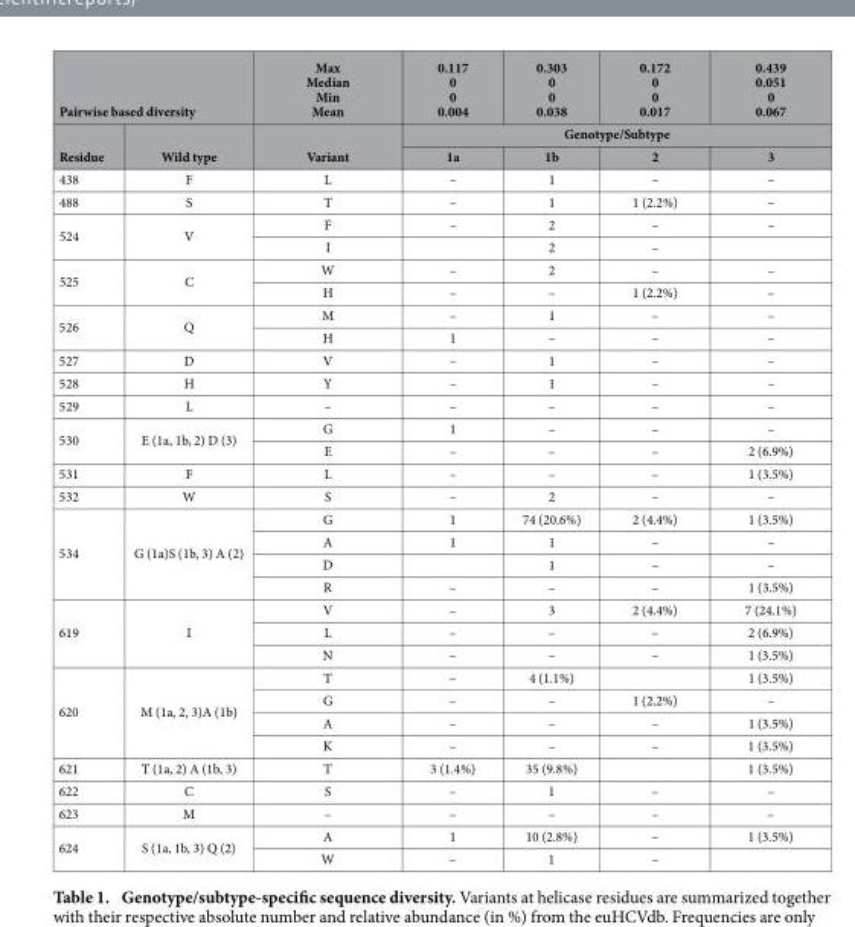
<table><thead><tr><td colspan="2">Pairwise based diversity</td><td rowspan="3">Max Median Min Mean Variant</td><td>0.117 0 0 0.004</td><td>0.303 0 0 0.038</td><td>0.172 0 0 0.017</td><td>0.439 0.051 0 0.067</td></tr><tr><td rowspan="2">Residue</td><td rowspan="2">Wild type</td><td colspan="4">Genotype/Subtype</td></tr><tr><td>1a</td><td>1b</td><td>2</td><td>3</td></tr></thead><tbody><tr><td>438</td><td>F</td><td>L</td><td>–</td><td>1</td><td>–</td><td>–</td></tr><tr><td>488</td><td>S</td><td>T</td><td>–</td><td>1</td><td>1 (2.2%)</td><td>–</td></tr><tr><td rowspan="2">524</td><td rowspan="2">V</td><td>F</td><td>–</td><td>2</td><td>–</td><td>–</td></tr><tr><td>I</td><td></td><td>2</td><td>–</td><td></td></tr><tr><td rowspan="2">525</td><td rowspan="2">C</td><td>W</td><td>–</td><td>2</td><td>–</td><td>–</td></tr><tr><td>H</td><td>–</td><td>–</td><td>1 (2.2%)</td><td>–</td></tr><tr><td rowspan="2">526</td><td rowspan="2">Q</td><td>M</td><td>–</td><td>1</td><td>–</td><td>–</td></tr><tr><td>H</td><td>1</td><td>–</td><td>–</td><td>–</td></tr><tr><td>527</td><td>D</td><td>V</td><td>–</td><td>1</td><td>–</td><td>–</td></tr><tr><td>528</td><td>H</td><td>Y</td><td>–</td><td>1</td><td>–</td><td>–</td></tr><tr><td>529</td><td>L</td><td>–</td><td>–</td><td>–</td><td>–</td><td>–</td></tr><tr><td rowspan="2">530</td><td rowspan="2">E (1a, 1b, 2) D (3)</td><td>G</td><td>1</td><td>–</td><td>–</td><td>–</td></tr><tr><td>E</td><td>–</td><td>–</td><td>–</td><td>2 (6.9%)</td></tr><tr><td>531</td><td>F</td><td>L</td><td>–</td><td>–</td><td>–</td><td>1 (3.5%)</td></tr><tr><td>532</td><td>W</td><td>S</td><td>–</td><td>2</td><td>–</td><td>–</td></tr><tr><td rowspan="4">534</td><td rowspan="4">G (1a)S (1b, 3) A (2)</td><td>G</td><td>1</td><td>74 (20.6%)</td><td>2 (4.4%)</td><td>1 (3.5%)</td></tr><tr><td>A</td><td>1</td><td>1</td><td>–</td><td>–</td></tr><tr><td>D</td><td></td><td>1</td><td>–</td><td>–</td></tr><tr><td>R</td><td>–</td><td>–</td><td>–</td><td>1 (3.5%)</td></tr><tr><td rowspan="3">619</td><td rowspan="3">I</td><td>V</td><td>–</td><td>3</td><td>2 (4.4%)</td><td>7 (24.1%)</td></tr><tr><td>L</td><td>–</td><td>–</td><td>–</td><td>2 (6.9%)</td></tr><tr><td>N</td><td>–</td><td>–</td><td>–</td><td>1 (3.5%)</td></tr><tr><td rowspan="4">620</td><td rowspan="4">M (1a, 2, 3)A (1b)</td><td>T</td><td>–</td><td>4 (1.1%)</td><td></td><td>1 (3.5%)</td></tr><tr><td>G</td><td>–</td><td>–</td><td>1 (2.2%)</td><td>–</td></tr><tr><td>A</td><td>–</td><td>–</td><td>–</td><td>1 (3.5%)</td></tr><tr><td>K</td><td>–</td><td>–</td><td>–</td><td>1 (3.5%)</td></tr><tr><td>621</td><td>T (1a, 2) A (1b, 3)</td><td>T</td><td>3 (1.4%)</td><td>35 (9.8%)</td><td></td><td>1 (3.5%)</td></tr><tr><td>622</td><td>C</td><td>S</td><td>–</td><td>1</td><td>–</td><td>–</td></tr><tr><td>623</td><td>M</td><td>–</td><td>–</td><td>–</td><td>–</td><td>–</td></tr><tr><td rowspan="2">624</td><td rowspan="2">S (1a, 1b, 3) Q (2)</td><td>A</td><td>1</td><td>10 (2.8%)</td><td>–</td><td>1 (3.5%)</td></tr><tr><td>W</td><td>–</td><td>1</td><td>–</td><td></td></tr></tbody></table>